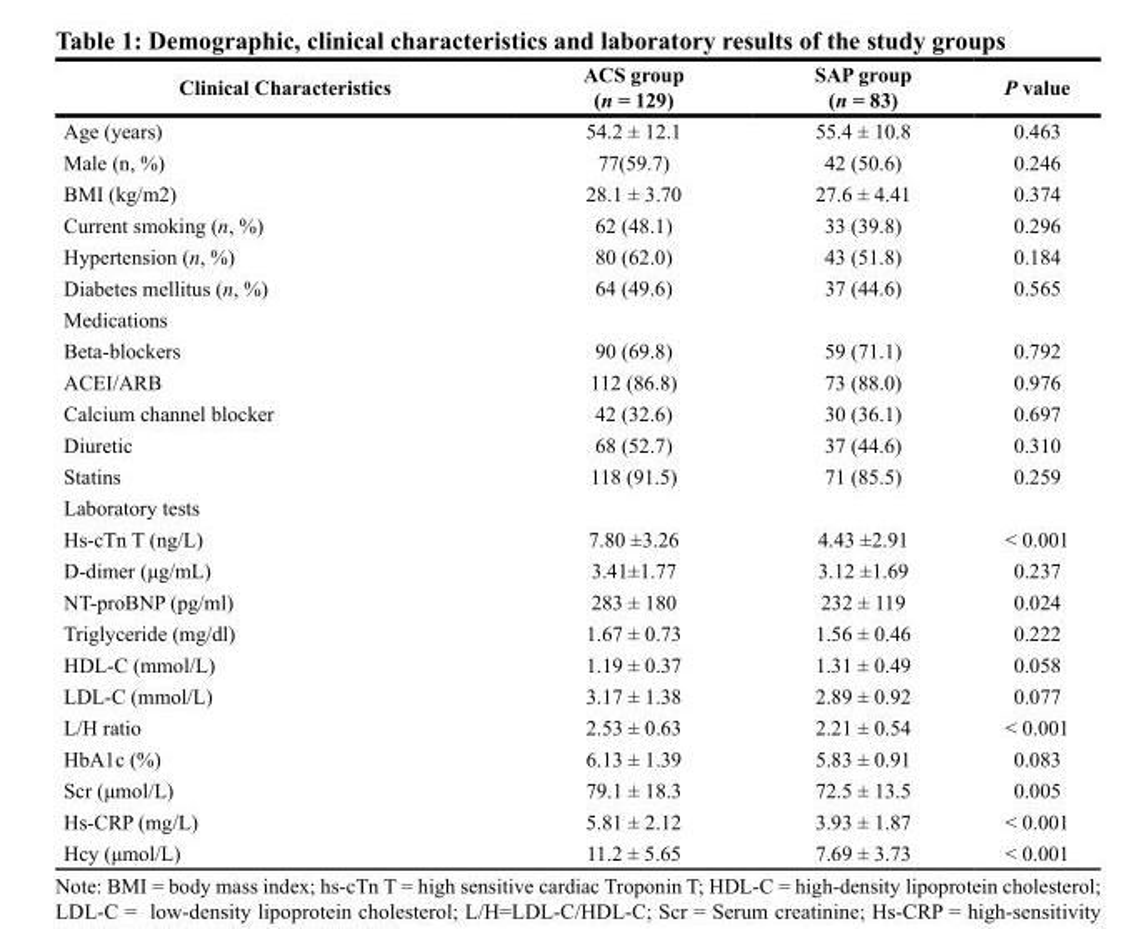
<table><thead><tr><td>Clinical Characteristics</td><td>ACS group (n = 129)</td><td>SAP group (n = 83)</td><td>P value</td></tr></thead><tbody><tr><td>Age (years)</td><td>54.2 ± 12.1</td><td>55.4 ± 10.8</td><td>0.463</td></tr><tr><td>Male (n, %)</td><td>77(59.7)</td><td>42 (50.6)</td><td>0.246</td></tr><tr><td>BMI (kg/m2)</td><td>28.1 ± 3.70</td><td>27.6 ± 4.41</td><td>0.374</td></tr><tr><td>Current smoking (n, %)</td><td>62 (48.1)</td><td>33 (39.8)</td><td>0.296</td></tr><tr><td>Hypertension (n, %)</td><td>80 (62.0)</td><td>43 (51.8)</td><td>0.184</td></tr><tr><td>Diabetes mellitus (n, %)</td><td>64 (49.6)</td><td>37 (44.6)</td><td>0.565</td></tr><tr><td colspan="4">Medications</td></tr><tr><td>Beta-blockers</td><td>90 (69.8)</td><td>59 (71.1)</td><td>0.792</td></tr><tr><td>ACEI/ARB</td><td>112 (86.8)</td><td>73 (88.0)</td><td>0.976</td></tr><tr><td>Calcium channel blocker</td><td>42 (32.6)</td><td>30 (36.1)</td><td>0.697</td></tr><tr><td>Diuretic</td><td>68 (52.7)</td><td>37 (44.6)</td><td>0.310</td></tr><tr><td>Statins</td><td>118 (91.5)</td><td>71 (85.5)</td><td>0.259</td></tr><tr><td colspan="4">Laboratory tests</td></tr><tr><td>Hs-cTn T (ng/L)</td><td>7.80 ±3.26</td><td>4.43 ±2.91</td><td>&lt; 0.001</td></tr><tr><td>D-dimer (μg/mL)</td><td>3.41±1.77</td><td>3.12 ±1.69</td><td>0.237</td></tr><tr><td>NT-proBNP (pg/ml)</td><td>283 ± 180</td><td>232 ± 119</td><td>0.024</td></tr><tr><td>Triglyceride (mg/dl)</td><td>1.67 ± 0.73</td><td>1.56 ± 0.46</td><td>0.222</td></tr><tr><td>HDL-C (mmol/L)</td><td>1.19 ± 0.37</td><td>1.31 ± 0.49</td><td>0.058</td></tr><tr><td>LDL-C (mmol/L)</td><td>3.17 ± 1.38</td><td>2.89 ± 0.92</td><td>0.077</td></tr><tr><td>L/H ratio</td><td>2.53 ± 0.63</td><td>2.21 ± 0.54</td><td>&lt; 0.001</td></tr><tr><td>HbA1c (%)</td><td>6.13 ± 1.39</td><td>5.83 ± 0.91</td><td>0.083</td></tr><tr><td>Scr (μmol/L)</td><td>79.1 ± 18.3</td><td>72.5 ± 13.5</td><td>0.005</td></tr><tr><td>Hs-CRP (mg/L)</td><td>5.81 ± 2.12</td><td>3.93 ± 1.87</td><td>&lt; 0.001</td></tr><tr><td>Hcy (μmol/L)</td><td>11.2 ± 5.65</td><td>7.69 ± 3.73</td><td>&lt; 0.001</td></tr></tbody></table>